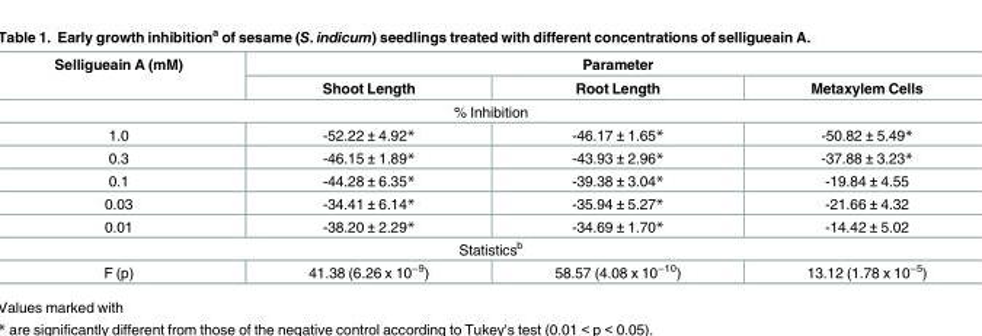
<table><thead><tr><td rowspan="2">Selligueain A (mM)</td><td colspan="3">Parameter</td></tr><tr><td>Shoot Length</td><td>Root Length</td><td>Metaxylem Cells</td></tr></thead><tbody><tr><td colspan="4">% Inhibition</td></tr><tr><td>1.0</td><td>-52.22 ± 4.92*</td><td>-46.17 ± 1.65*</td><td>-50.82 ± 5.49*</td></tr><tr><td>0.3</td><td>-46.15 ± 1.89*</td><td>-43.93 ± 2.96*</td><td>-37.88 ± 3.23*</td></tr><tr><td>0.1</td><td>-44.28 ± 6.35*</td><td>-39.38 ± 3.04*</td><td>-19.84 ± 4.55</td></tr><tr><td>0.03</td><td>-34.41 ± 6.14*</td><td>-35.94 ± 5.27*</td><td>-21.66 ± 4.32</td></tr><tr><td>0.01</td><td>-38.20 ± 2.29*</td><td>-34.69 ± 1.70*</td><td>-14.42 ± 5.02</td></tr><tr><td colspan="4">Statistics<sup>b</sup></td></tr><tr><td>F (p)</td><td>41.38 (6.26 x 10<sup>−9</sup>)</td><td>58.57 (4.08 x 10<sup>−10</sup>)</td><td>13.12 (1.78 x 10<sup>−5</sup>)</td></tr></tbody></table>